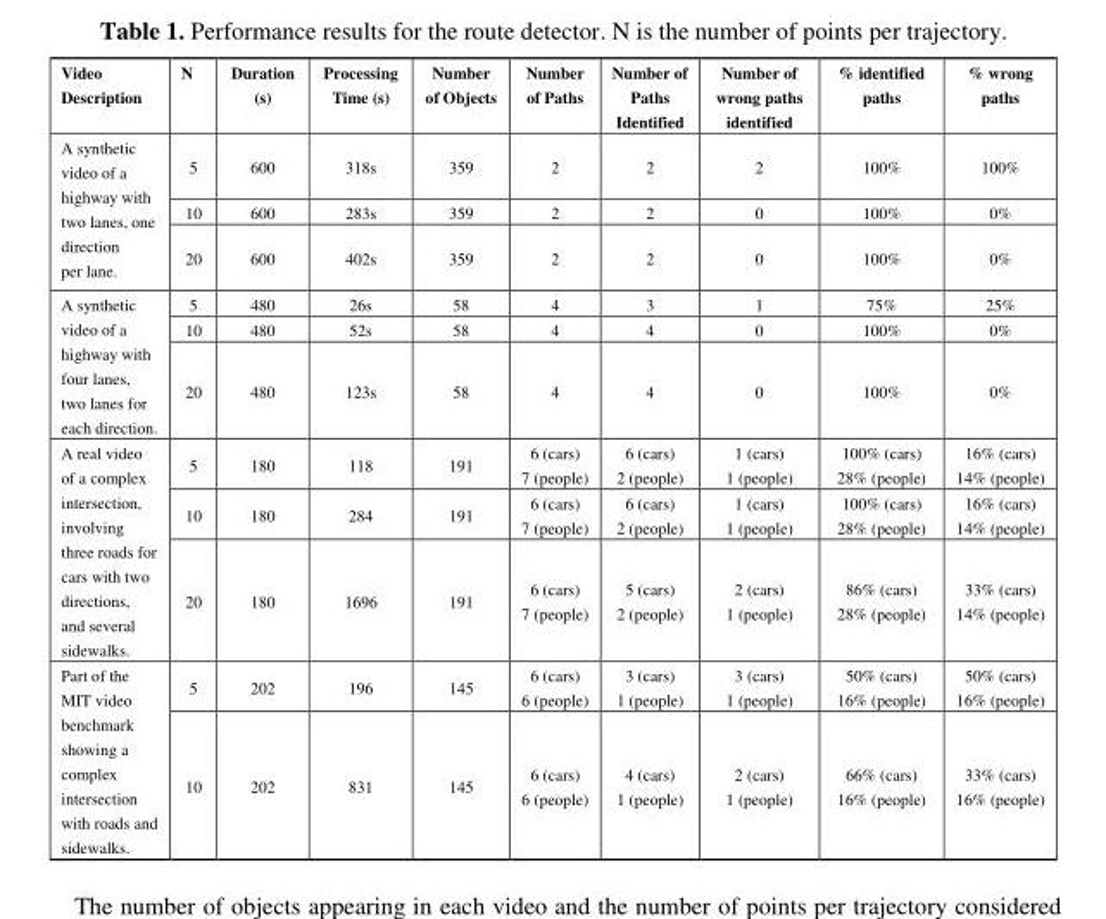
<table><thead><tr><td>Video Description</td><td>N</td><td>Duration (s)</td><td>Processing Time (s)</td><td>Number of Objects</td><td>Number of Paths</td><td>Number of Paths Identified</td><td>Number of wrong paths identified</td><td>% identified paths</td><td>% wrong paths</td></tr></thead><tbody><tr><td rowspan="3">A synthetic video of a highway with two lanes, one direction per lane.</td><td>5</td><td>600</td><td>318s</td><td>359</td><td>2</td><td>2</td><td>2</td><td>100%</td><td>100%</td></tr><tr><td>10</td><td>600</td><td>283s</td><td>359</td><td>2</td><td>2</td><td>0</td><td>100%</td><td>0%</td></tr><tr><td>20</td><td>600</td><td>402s</td><td>359</td><td>2</td><td>2</td><td>0</td><td>100%</td><td>0%</td></tr><tr><td rowspan="3">A synthetic video of a highway with four lanes, two lanes for each direction.</td><td>5</td><td>480</td><td>26s</td><td>58</td><td>4</td><td>3</td><td>1</td><td>75%</td><td>25%</td></tr><tr><td>10</td><td>480</td><td>52s</td><td>58</td><td>4</td><td>4</td><td>0</td><td>100%</td><td>0%</td></tr><tr><td>20</td><td>480</td><td>123s</td><td>58</td><td>4</td><td>4</td><td>0</td><td>100%</td><td>0%</td></tr><tr><td rowspan="3">A real video of a complex intersection, involving three roads for cars with two directions, and several sidewalks.</td><td>5</td><td>180</td><td>118</td><td>191</td><td>6 (cars) 7 (people)</td><td>6 (cars) 2 (people)</td><td>1 (cars) 1 (people)</td><td>100% (cars) 28% (people)</td><td>16% (cars) 14% (people)</td></tr><tr><td>10</td><td>180</td><td>284</td><td>191</td><td>6 (cars) 7 (people)</td><td>6 (cars) 2 (people)</td><td>1 (cars) 1 (people)</td><td>100% (cars) 28% (people)</td><td>16% (cars) 14% (people)</td></tr><tr><td>20</td><td>180</td><td>1696</td><td>191</td><td>6 (cars) 7 (people)</td><td>5 (cars) 2 (people)</td><td>2 (cars) 1 (people)</td><td>86% (cars) 28% (people)</td><td>33% (cars) 14% (people)</td></tr><tr><td rowspan="2">Part of the MIT video benchmark showing a complex intersection with roads and sidewalks.</td><td>5</td><td>202</td><td>196</td><td>145</td><td>6 (cars) 6 (people)</td><td>3 (cars) 1 (people)</td><td>3 (cars) 1 (people)</td><td>50% (cars) 16% (people)</td><td>50% (cars) 16% (people)</td></tr><tr><td>10</td><td>202</td><td>831</td><td>145</td><td>6 (cars) 6 (people)</td><td>4 (cars) 1 (people)</td><td>2 (cars) 1 (people)</td><td>66% (cars) 16% (people)</td><td>33% (cars) 16% (people)</td></tr></tbody></table>